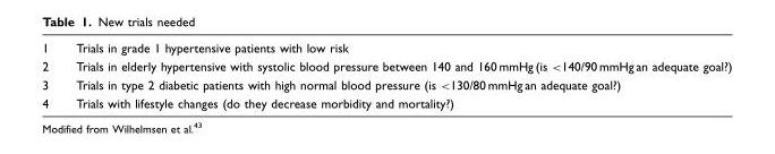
<table><tbody><tr><td>1</td><td>Trials in grade 1 hypertensive patients with low risk</td></tr><tr><td>2</td><td>Trials in elderly hypertensive with systolic blood pressure between 140 and 160 mmHg (is &lt;140/90 mmHg an adequate goal?)</td></tr><tr><td>3</td><td>Trials in type 2 diabetic patients with high normal blood pressure (is &lt;130/80 mmHg an adequate goal?)</td></tr><tr><td>4</td><td>Trials with lifestyle changes (do they decrease morbidity and mortality?)</td></tr></tbody></table>